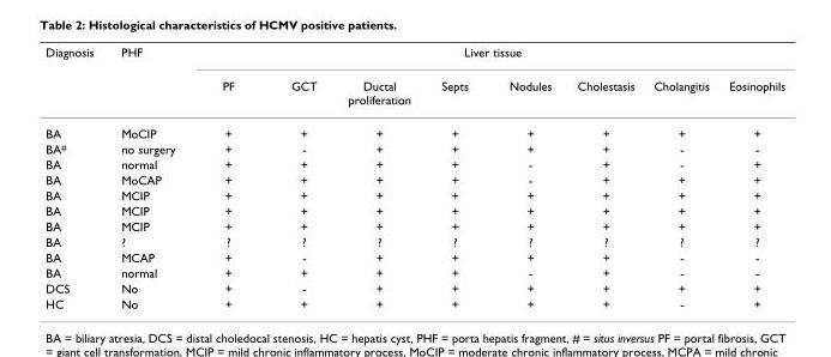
<table><thead><tr><td rowspan="2">Diagnosis</td><td rowspan="2">PHF</td><td colspan="8">Liver tissue</td></tr><tr><td>PF</td><td>GCT</td><td>Ductal proliferation</td><td>Septs</td><td>Nodules</td><td>Cholestasis</td><td>Cholangitis</td><td>Eosinophils</td></tr></thead><tbody><tr><td>BA</td><td>MoCIP</td><td>+</td><td>+</td><td>+</td><td>+</td><td>+</td><td>+</td><td>+</td><td>+</td></tr><tr><td>BA<sup>#</sup></td><td>no surgery</td><td>+</td><td>-</td><td>+</td><td>+</td><td>+</td><td>+</td><td>-</td><td>-</td></tr><tr><td>BA</td><td>normal</td><td>+</td><td>+</td><td>+</td><td>+</td><td>-</td><td>+</td><td>-</td><td>+</td></tr><tr><td>BA</td><td>MoCAP</td><td>+</td><td>+</td><td>+</td><td>+</td><td>-</td><td>+</td><td>+</td><td>+</td></tr><tr><td>BA</td><td>MCIP</td><td>+</td><td>+</td><td>+</td><td>+</td><td>+</td><td>+</td><td>+</td><td>+</td></tr><tr><td>BA</td><td>MCIP</td><td>+</td><td>+</td><td>+</td><td>+</td><td>+</td><td>+</td><td>+</td><td>+</td></tr><tr><td>BA</td><td>MCIP</td><td>+</td><td>+</td><td>+</td><td>+</td><td>+</td><td>+</td><td>+</td><td>+</td></tr><tr><td>BA</td><td>?</td><td>?</td><td>?</td><td>?</td><td>?</td><td>?</td><td>?</td><td>?</td><td>?</td></tr><tr><td>BA</td><td>MCAP</td><td>+</td><td>-</td><td>+</td><td>+</td><td>+</td><td>+</td><td>-</td><td>-</td></tr><tr><td>BA</td><td>normal</td><td>+</td><td>+</td><td>+</td><td>+</td><td>-</td><td>+</td><td>-</td><td>-</td></tr><tr><td>DCS</td><td>No</td><td>+</td><td>-</td><td>+</td><td>+</td><td>+</td><td>+</td><td>+</td><td>+</td></tr><tr><td>HC</td><td>No</td><td>+</td><td>+</td><td>+</td><td>+</td><td>+</td><td>+</td><td>-</td><td>+</td></tr></tbody></table>